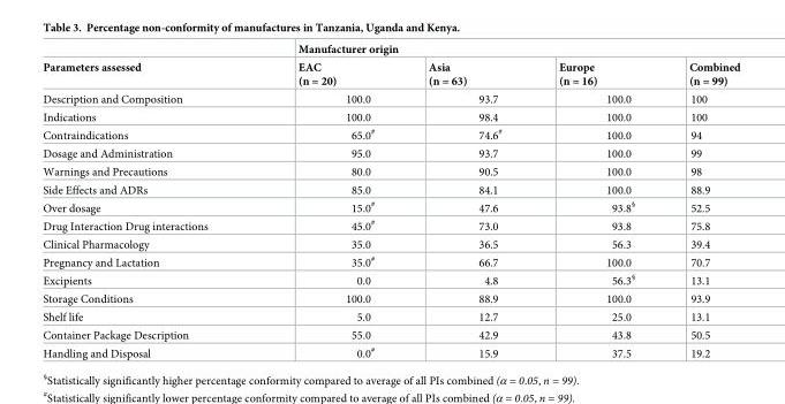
<table><thead><tr><td rowspan="2">Parameters assessed</td><td colspan="4">Manufacturer origin</td></tr><tr><td>EAC (n = 20)</td><td>Asia (n = 63)</td><td>Europe (n = 16)</td><td>Combined (n = 99)</td></tr></thead><tbody><tr><td>Description and Composition</td><td>100.0</td><td>93.7</td><td>100.0</td><td>100</td></tr><tr><td>Indications</td><td>100.0</td><td>98.4</td><td>100.0</td><td>100</td></tr><tr><td>Contraindications</td><td>65.0<sup>#</sup></td><td>74.6<sup>#</sup></td><td>100.0</td><td>94</td></tr><tr><td>Dosage and Administration</td><td>95.0</td><td>93.7</td><td>100.0</td><td>99</td></tr><tr><td>Warnings and Precautions</td><td>80.0</td><td>90.5</td><td>100.0</td><td>98</td></tr><tr><td>Side Effects and ADRs</td><td>85.0</td><td>84.1</td><td>100.0</td><td>88.9</td></tr><tr><td>Over dosage</td><td>15.0<sup>#</sup></td><td>47.6</td><td>93.8<sup>§</sup></td><td>52.5</td></tr><tr><td>Drug Interaction Drug interactions</td><td>45.0<sup>#</sup></td><td>73.0</td><td>93.8</td><td>75.8</td></tr><tr><td>Clinical Pharmacology</td><td>35.0</td><td>36.5</td><td>56.3</td><td>39.4</td></tr><tr><td>Pregnancy and Lactation</td><td>35.0<sup>#</sup></td><td>66.7</td><td>100.0</td><td>70.7</td></tr><tr><td>Excipients</td><td>0.0</td><td>4.8</td><td>56.3<sup>§</sup></td><td>13.1</td></tr><tr><td>Storage Conditions</td><td>100.0</td><td>88.9</td><td>100.0</td><td>93.9</td></tr><tr><td>Shelf life</td><td>5.0</td><td>12.7</td><td>25.0</td><td>13.1</td></tr><tr><td>Container Package Description</td><td>55.0</td><td>42.9</td><td>43.8</td><td>50.5</td></tr><tr><td>Handling and Disposal</td><td>0.0<sup>#</sup></td><td>15.9</td><td>37.5</td><td>19.2</td></tr></tbody></table>